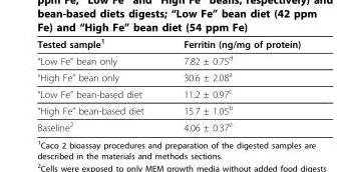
<table><thead><tr><td>Tested sample1</td><td>Ferritin (ng/mg of protein)</td></tr></thead><tbody><tr><td>“Low Fe” bean only</td><td>7.82 ± 0.75d</td></tr><tr><td>“High Fe” bean only</td><td>30.6 ± 2.08a</td></tr><tr><td>“Low Fe” bean-based diet</td><td>11.2 ± 0.97c</td></tr><tr><td>“High Fe” bean-based diet</td><td>15.7 ± 1.05b</td></tr><tr><td>Baseline2</td><td>4.06 ± 0.37e</td></tr></tbody></table>